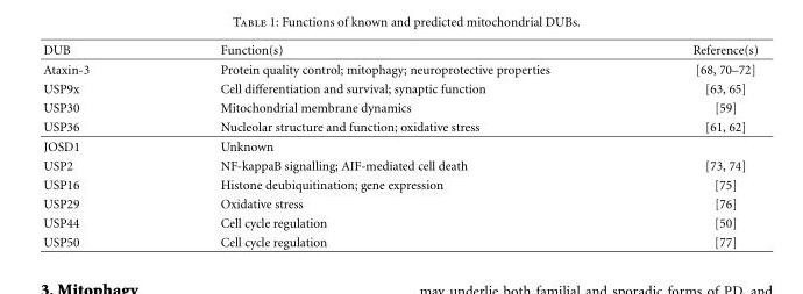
<table><thead><tr><td>DUB</td><td>Function(s)</td><td>Reference(s)</td></tr></thead><tbody><tr><td>Ataxin-3</td><td>Protein quality control; mitophagy; neuroprotective properties</td><td>[68, 70–72]</td></tr><tr><td>USP9x</td><td>Cell differentiation and survival; synaptic function</td><td>[63, 65]</td></tr><tr><td>USP30</td><td>Mitochondrial membrane dynamics</td><td>[59]</td></tr><tr><td>USP36</td><td>Nucleolar structure and function; oxidative stress</td><td>[61, 62]</td></tr><tr><td>JOSD1</td><td>Unknown</td><td></td></tr><tr><td>USP2</td><td>NF-kappaB signalling; AIF-mediated cell death</td><td>[73, 74]</td></tr><tr><td>USP16</td><td>Histone deubiquitination; gene expression</td><td>[75]</td></tr><tr><td>USP29</td><td>Oxidative stress</td><td>[76]</td></tr><tr><td>USP44</td><td>Cell cycle regulation</td><td>[50]</td></tr><tr><td>USP50</td><td>Cell cycle regulation</td><td>[77]</td></tr></tbody></table>